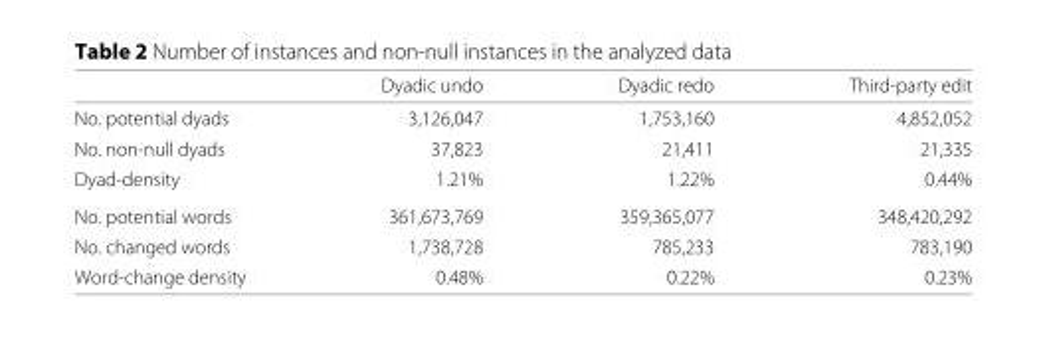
<table><thead><tr><td></td><td>Dyadic undo</td><td>Dyadic redo</td><td>Third-party edit</td></tr></thead><tbody><tr><td>No. potential dyads</td><td>3,126,047</td><td>1,753,160</td><td>4,852,052</td></tr><tr><td>No. non-null dyads</td><td>37,823</td><td>21,411</td><td>21,335</td></tr><tr><td>Dyad-density</td><td>1.21%</td><td>1.22%</td><td>0.44%</td></tr><tr><td>No. potential words</td><td>361,673,769</td><td>359,365,077</td><td>348,420,292</td></tr><tr><td>No. changed words</td><td>1,738,728</td><td>785,233</td><td>783,190</td></tr><tr><td>Word-change density</td><td>0.48%</td><td>0.22%</td><td>0.23%</td></tr></tbody></table>